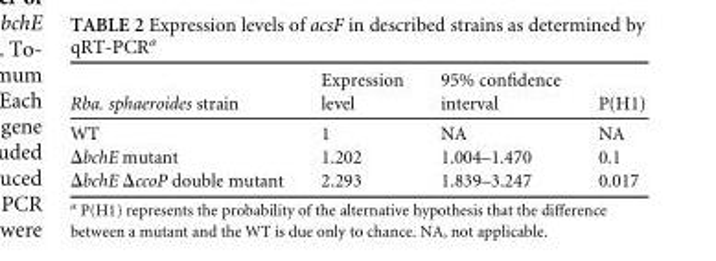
<table><thead><tr><td>Rba. sphaeroides strain</td><td>Expression level</td><td>95% confidence interval</td><td>P(H1)</td></tr></thead><tbody><tr><td>WT</td><td>1</td><td>NA</td><td>NA</td></tr><tr><td>ΔbchE mutant</td><td>1.202</td><td>1.004–1.470</td><td>0.1</td></tr><tr><td>ΔbchE ΔccoP double mutant</td><td>2.293</td><td>1.839–3.247</td><td>0.017</td></tr></tbody></table>